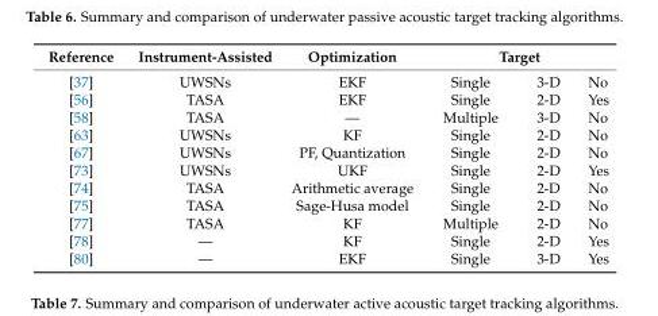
<table><thead><tr><td rowspan="2">Reference [37]</td><td rowspan="2">Instrument-Assisted UWSNs</td><td rowspan="2">Optimization EKF</td><td colspan="3">Target</td></tr><tr><td>Single</td><td>3-D</td><td>No</td></tr></thead><tbody><tr><td>[56]</td><td>TASA</td><td>EKF</td><td>Single</td><td>2-D</td><td>Yes</td></tr><tr><td>[58]</td><td>TASA</td><td>—</td><td>Multiple</td><td>3-D</td><td>No</td></tr><tr><td>[63]</td><td>UWSNs</td><td>KF</td><td>Single</td><td>2-D</td><td>No</td></tr><tr><td>[67]</td><td>UWSNs</td><td>PF, Quantization</td><td>Single</td><td>2-D</td><td>No</td></tr><tr><td>[73]</td><td>UWSNs</td><td>UKF</td><td>Single</td><td>2-D</td><td>Yes</td></tr><tr><td>[74]</td><td>TASA</td><td>Arithmetic average</td><td>Single</td><td>2-D</td><td>No</td></tr><tr><td>[75]</td><td>TASA</td><td>Sage-Husa model</td><td>Single</td><td>2-D</td><td>No</td></tr><tr><td>[77]</td><td>TASA</td><td>KF</td><td>Multiple</td><td>2-D</td><td>No</td></tr><tr><td>[78]</td><td>—</td><td>KF</td><td>Single</td><td>2-D</td><td>Yes</td></tr><tr><td>[80]</td><td>—</td><td>EKF</td><td>Single</td><td>3-D</td><td>Yes</td></tr></tbody></table>